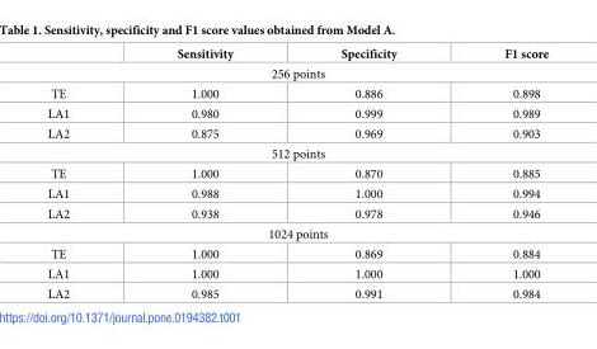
<table><thead><tr><td></td><td>Sensitivity</td><td>Specificity</td><td>F1 score</td></tr></thead><tbody><tr><td colspan="4">256 points</td></tr><tr><td>TE</td><td>1.000</td><td>0.886</td><td>0.898</td></tr><tr><td>LA1</td><td>0.980</td><td>0.999</td><td>0.989</td></tr><tr><td>LA2</td><td>0.875</td><td>0.969</td><td>0.903</td></tr><tr><td colspan="4">512 points</td></tr><tr><td>TE</td><td>1.000</td><td>0.870</td><td>0.885</td></tr><tr><td>LA1</td><td>0.988</td><td>1.000</td><td>0.994</td></tr><tr><td>LA2</td><td>0.938</td><td>0.978</td><td>0.946</td></tr><tr><td colspan="4">1024 points</td></tr><tr><td>TE</td><td>1.000</td><td>0.869</td><td>0.884</td></tr><tr><td>LA1</td><td>1.000</td><td>1.000</td><td>1.000</td></tr><tr><td>LA2</td><td>0.985</td><td>0.991</td><td>0.984</td></tr></tbody></table>